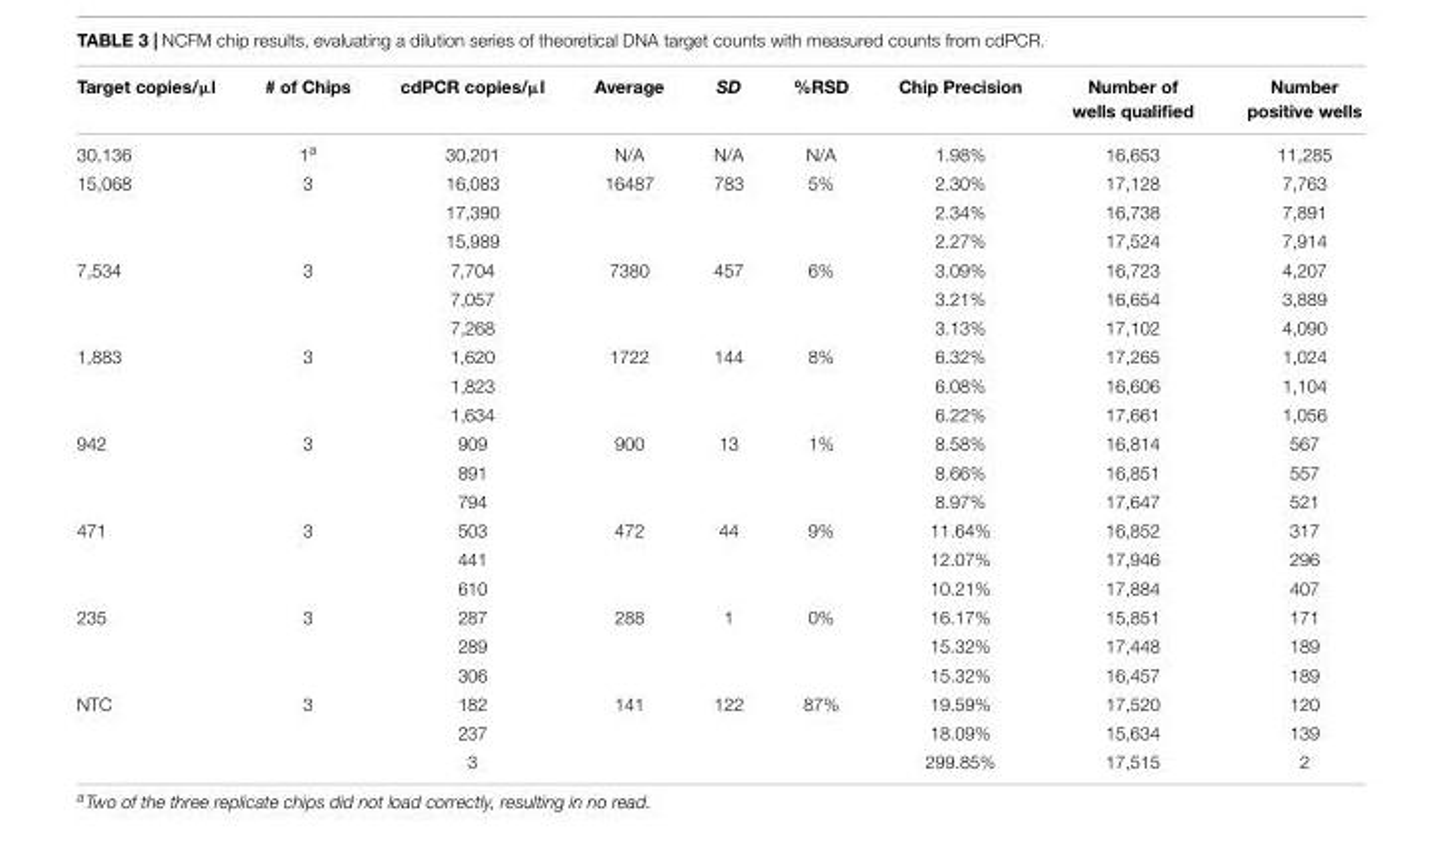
<table><thead><tr><td>Target copies/µl</td><td># of Chips</td><td>cdPCR copies/µl</td><td>Average</td><td>SD</td><td>%RSD</td><td>Chip Precision</td><td>Number of wells qualified</td><td>Number positive wells</td></tr></thead><tbody><tr><td>30,136</td><td>1<sup>a</sup></td><td>30,201</td><td>N/A</td><td>N/A</td><td>N/A</td><td>1.98%</td><td>16,653</td><td>11,285</td></tr><tr><td rowspan="3">15,068</td><td>3</td><td>16,083</td><td>16487</td><td>783</td><td>5%</td><td>2.30%</td><td>17,128</td><td>7,763</td></tr><tr><td></td><td>17,390</td><td></td><td></td><td></td><td>2.34%</td><td>16,738</td><td>7,891</td></tr><tr><td></td><td>15,989</td><td></td><td></td><td></td><td>2.27%</td><td>17,524</td><td>7,914</td></tr><tr><td rowspan="3">7,534</td><td>3</td><td>7,704</td><td>7380</td><td>457</td><td>6%</td><td>3.09%</td><td>16,723</td><td>4,207</td></tr><tr><td></td><td>7,057</td><td></td><td></td><td></td><td>3.21%</td><td>16,654</td><td>3,889</td></tr><tr><td></td><td>7,268</td><td></td><td></td><td></td><td>3.13%</td><td>17,102</td><td>4,090</td></tr><tr><td rowspan="3">1,883</td><td>3</td><td>1,620</td><td>1722</td><td>144</td><td>8%</td><td>6.32%</td><td>17,265</td><td>1,024</td></tr><tr><td></td><td>1,823</td><td></td><td></td><td></td><td>6.08%</td><td>16,606</td><td>1,104</td></tr><tr><td></td><td>1,634</td><td></td><td></td><td></td><td>6.22%</td><td>17,661</td><td>1,056</td></tr><tr><td rowspan="3">942</td><td>3</td><td>909</td><td>900</td><td>13</td><td>1%</td><td>8.58%</td><td>16,814</td><td>567</td></tr><tr><td></td><td>891</td><td></td><td></td><td></td><td>8.66%</td><td>16,851</td><td>557</td></tr><tr><td></td><td>794</td><td></td><td></td><td></td><td>8.97%</td><td>17,647</td><td>521</td></tr><tr><td rowspan="3">471</td><td>3</td><td>503</td><td>472</td><td>44</td><td>9%</td><td>11.64%</td><td>16,852</td><td>317</td></tr><tr><td></td><td>441</td><td></td><td></td><td></td><td>12.07%</td><td>17,946</td><td>296</td></tr><tr><td></td><td>610</td><td></td><td></td><td></td><td>10.21%</td><td>17,884</td><td>407</td></tr><tr><td rowspan="3">235</td><td>3</td><td>287</td><td>288</td><td>1</td><td>0%</td><td>16.17%</td><td>15,851</td><td>171</td></tr><tr><td></td><td>289</td><td></td><td></td><td></td><td>15.32%</td><td>17,448</td><td>189</td></tr><tr><td></td><td>306</td><td></td><td></td><td></td><td>15.32%</td><td>16,457</td><td>189</td></tr><tr><td rowspan="3">NTC</td><td>3</td><td>182</td><td>141</td><td>122</td><td>87%</td><td>19.59%</td><td>17,520</td><td>120</td></tr><tr><td></td><td>237</td><td></td><td></td><td></td><td>18.09%</td><td>15,634</td><td>139</td></tr><tr><td></td><td>3</td><td></td><td></td><td></td><td>299.85%</td><td>17,515</td><td>2</td></tr></tbody></table>